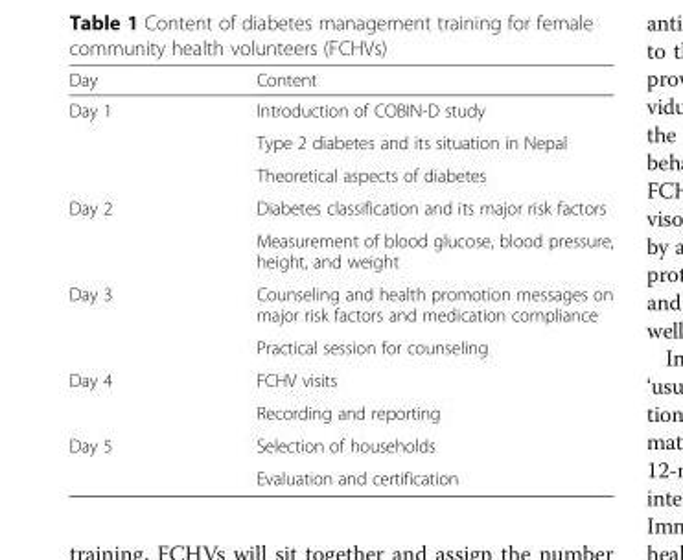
<table><thead><tr><td>Day</td><td>Content</td></tr></thead><tbody><tr><td rowspan="3">Day 1</td><td>Introduction of COBIN-D study</td></tr><tr><td>Type 2 diabetes and its situation in Nepal</td></tr><tr><td>Theoretical aspects of diabetes</td></tr><tr><td rowspan="2">Day 2</td><td>Diabetes classification and its major risk factors</td></tr><tr><td>Measurement of blood glucose, blood pressure, height, and weight</td></tr><tr><td rowspan="2">Day 3</td><td>Counseling and health promotion messages on major risk factors and medication compliance</td></tr><tr><td>Practical session for counseling</td></tr><tr><td rowspan="2">Day 4</td><td>FCHV visits</td></tr><tr><td>Recording and reporting</td></tr><tr><td rowspan="2">Day 5</td><td>Selection of households</td></tr><tr><td>Evaluation and certification</td></tr></tbody></table>